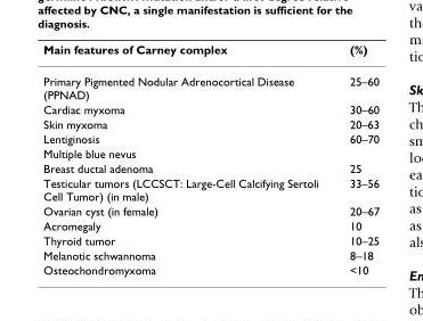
<table><thead><tr><td>Main features of Carney complex</td><td>(%)</td></tr></thead><tbody><tr><td>Primary Pigmented Nodular Adrenocortical Disease (PPNAD)</td><td>25–60</td></tr><tr><td>Cardiac myxoma</td><td>30–60</td></tr><tr><td>Skin myxoma</td><td>20–63</td></tr><tr><td>Lentiginosis</td><td>60–70</td></tr><tr><td colspan="2">Multiple blue nevus</td></tr><tr><td>Breast ductal adenoma</td><td>25</td></tr><tr><td>Testicular tumors (LCCSCT: Large-Cell Calcifying Sertoli Cell Tumor) (in male)</td><td>33–56</td></tr><tr><td>Ovarian cyst (in female)</td><td>20–67</td></tr><tr><td>Acromegaly</td><td>10</td></tr><tr><td>Thyroid tumor</td><td>10–25</td></tr><tr><td>Melanotic schwannoma</td><td>8–18</td></tr><tr><td>Osteochondromyxoma</td><td>&lt;10</td></tr></tbody></table>